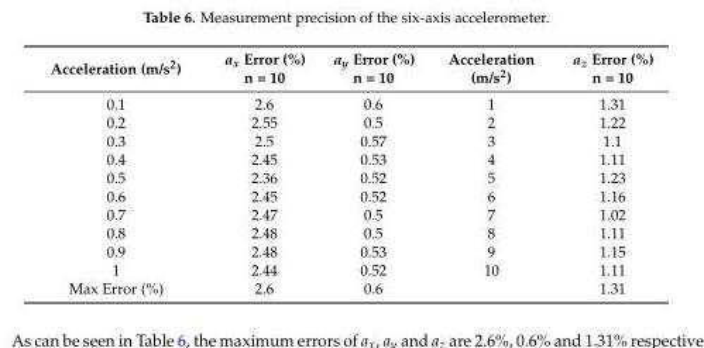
<table><thead><tr><td>Acceleration (m/s<sup>2</sup>)</td><td>a<sub>x</sub> Error (%) n = 10</td><td>a<sub>y</sub> Error (%) n = 10</td><td>Acceleration (m/s<sup>2</sup>)</td><td>a<sub>z</sub> Error (%) n = 10</td></tr></thead><tbody><tr><td>0.1</td><td>2.6</td><td>0.6</td><td>1</td><td>1.31</td></tr><tr><td>0.2</td><td>2.55</td><td>0.5</td><td>2</td><td>1.22</td></tr><tr><td>0.3</td><td>2.5</td><td>0.57</td><td>3</td><td>1.1</td></tr><tr><td>0.4</td><td>2.45</td><td>0.53</td><td>4</td><td>1.11</td></tr><tr><td>0.5</td><td>2.36</td><td>0.52</td><td>5</td><td>1.23</td></tr><tr><td>0.6</td><td>2.45</td><td>0.52</td><td>6</td><td>1.16</td></tr><tr><td>0.7</td><td>2.47</td><td>0.5</td><td>7</td><td>1.02</td></tr><tr><td>0.8</td><td>2.48</td><td>0.5</td><td>8</td><td>1.11</td></tr><tr><td>0.9</td><td>2.48</td><td>0.53</td><td>9</td><td>1.15</td></tr><tr><td>1</td><td>2.44</td><td>0.52</td><td>10</td><td>1.11</td></tr><tr><td>Max Error (%)</td><td>2.6</td><td>0.6</td><td></td><td>1.31</td></tr></tbody></table>